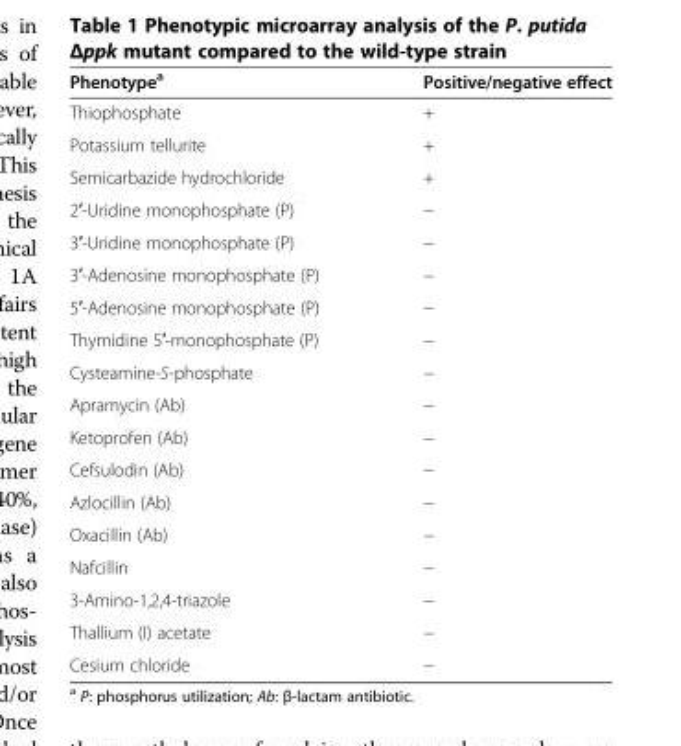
<table><thead><tr><td>Phenotype<sup>a</sup></td><td>Positive/negative effect</td></tr></thead><tbody><tr><td>Thiophosphate</td><td>+</td></tr><tr><td>Potassium tellurite</td><td>+</td></tr><tr><td>Semicarbazide hydrochloride</td><td>+</td></tr><tr><td>2′-Uridine monophosphate (P)</td><td>−</td></tr><tr><td>3′-Uridine monophosphate (P)</td><td>−</td></tr><tr><td>3′-Adenosine monophosphate (P)</td><td>−</td></tr><tr><td>5′-Adenosine monophosphate (P)</td><td>−</td></tr><tr><td>Thymidine 5′-monophosphate (P)</td><td>−</td></tr><tr><td>Cysteamine-S-phosphate</td><td>−</td></tr><tr><td>Apramycin (Ab)</td><td>−</td></tr><tr><td>Ketoprofen (Ab)</td><td>−</td></tr><tr><td>Cefsulodin (Ab)</td><td>−</td></tr><tr><td>Azlocillin (Ab)</td><td>−</td></tr><tr><td>Oxacillin (Ab)</td><td>−</td></tr><tr><td>Nafcillin</td><td>−</td></tr><tr><td>3-Amino-1,2,4-triazole</td><td>−</td></tr><tr><td>Thallium (I) acetate</td><td>−</td></tr><tr><td>Cesium chloride</td><td>−</td></tr></tbody></table>